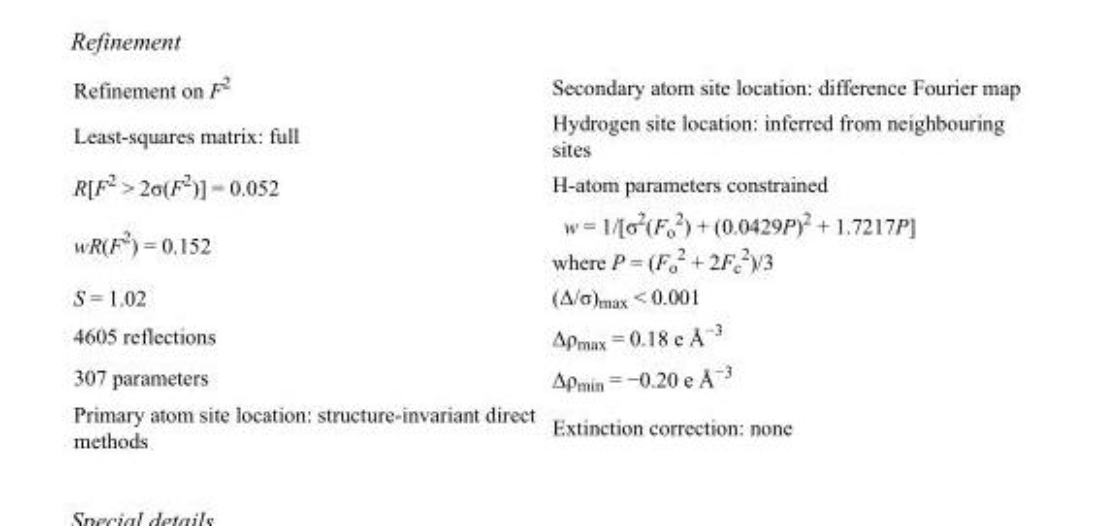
<table><tbody><tr><td>Refinement on F<sup>2</sup></td><td>Secondary atom site location: difference Fourier map</td></tr><tr><td>Least-squares matrix: full</td><td>Hydrogen site location: inferred from neighbouring sites</td></tr><tr><td>R[F<sup>2</sup> &gt; 2σ(F<sup>2</sup>)] = 0.052</td><td>H-atom parameters constrained</td></tr><tr><td>wR(F<sup>2</sup>) = 0.152</td><td>w = 1/[σ<sup>2</sup>(F<sub>o</sub> <sup>2</sup>) + (0.0429P)<sup>2</sup> + 1.7217P] where P = (F<sub>o</sub> <sup>2</sup> + 2F<sub>c</sub> <sup>2</sup>)/3</td></tr><tr><td>S = 1.02</td><td>(Δ/σ)<sub>max</sub> &lt; 0.001</td></tr><tr><td>4605 reflections</td><td>Δρ<sub>max</sub> = 0.18 e Å<sup>−3</sup></td></tr><tr><td>307 parameters</td><td>Δρ<sub>min</sub> = −0.20 e Å<sup>−3</sup></td></tr><tr><td>Primary atom site location: structure-invariant direct methods</td><td>Extinction correction: none</td></tr></tbody></table>